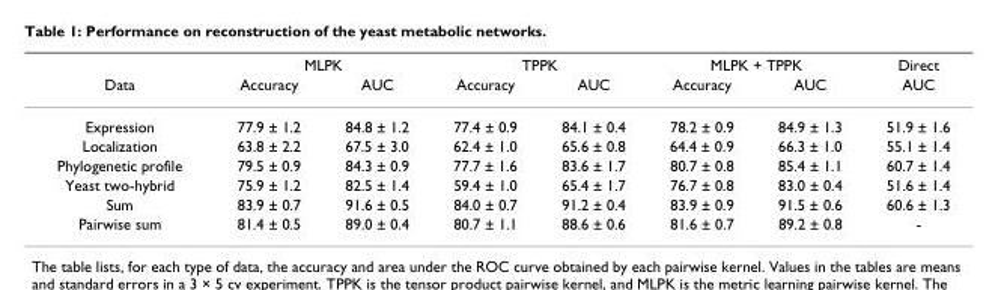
<table><thead><tr><td rowspan="2">Data</td><td colspan="2">MLPK</td><td colspan="2">TPPK</td><td colspan="2">MLPK + TPPK</td><td rowspan="2">Direct AUC</td></tr><tr><td>Accuracy</td><td>AUC</td><td>Accuracy</td><td>AUC</td><td>Accuracy</td><td>AUC</td></tr></thead><tbody><tr><td>Expression</td><td>77.9 ± 1.2</td><td>84.8 ± 1.2</td><td>77.4 ± 0.9</td><td>84.1 ± 0.4</td><td>78.2 ± 0.9</td><td>84.9 ± 1.3</td><td>51.9 ± 1.6</td></tr><tr><td>Localization</td><td>63.8 ± 2.2</td><td>67.5 ± 3.0</td><td>62.4 ± 1.0</td><td>65.6 ± 0.8</td><td>64.4 ± 0.9</td><td>66.3 ± 1.0</td><td>55.1 ± 1.4</td></tr><tr><td>Phylogenetic profile</td><td>79.5 ± 0.9</td><td>84.3 ± 0.9</td><td>77.7 ± 1.6</td><td>83.6 ± 1.7</td><td>80.7 ± 0.8</td><td>85.4 ± 1.1</td><td>60.7 ± 1.4</td></tr><tr><td>Yeast two-hybrid</td><td>75.9 ± 1.2</td><td>82.5 ± 1.4</td><td>59.4 ± 1.0</td><td>65.4 ± 1.7</td><td>76.7 ± 0.8</td><td>83.0 ± 0.4</td><td>51.6 ± 1.4</td></tr><tr><td>Sum</td><td>83.9 ± 0.7</td><td>91.6 ± 0.5</td><td>84.0 ± 0.7</td><td>91.2 ± 0.4</td><td>83.9 ± 0.9</td><td>91.5 ± 0.6</td><td>60.6 ± 1.3</td></tr><tr><td>Pairwise sum</td><td>81.4 ± 0.5</td><td>89.0 ± 0.4</td><td>80.7 ± 1.1</td><td>88.6 ± 0.6</td><td>81.6 ± 0.7</td><td>89.2 ± 0.8</td><td>-</td></tr></tbody></table>